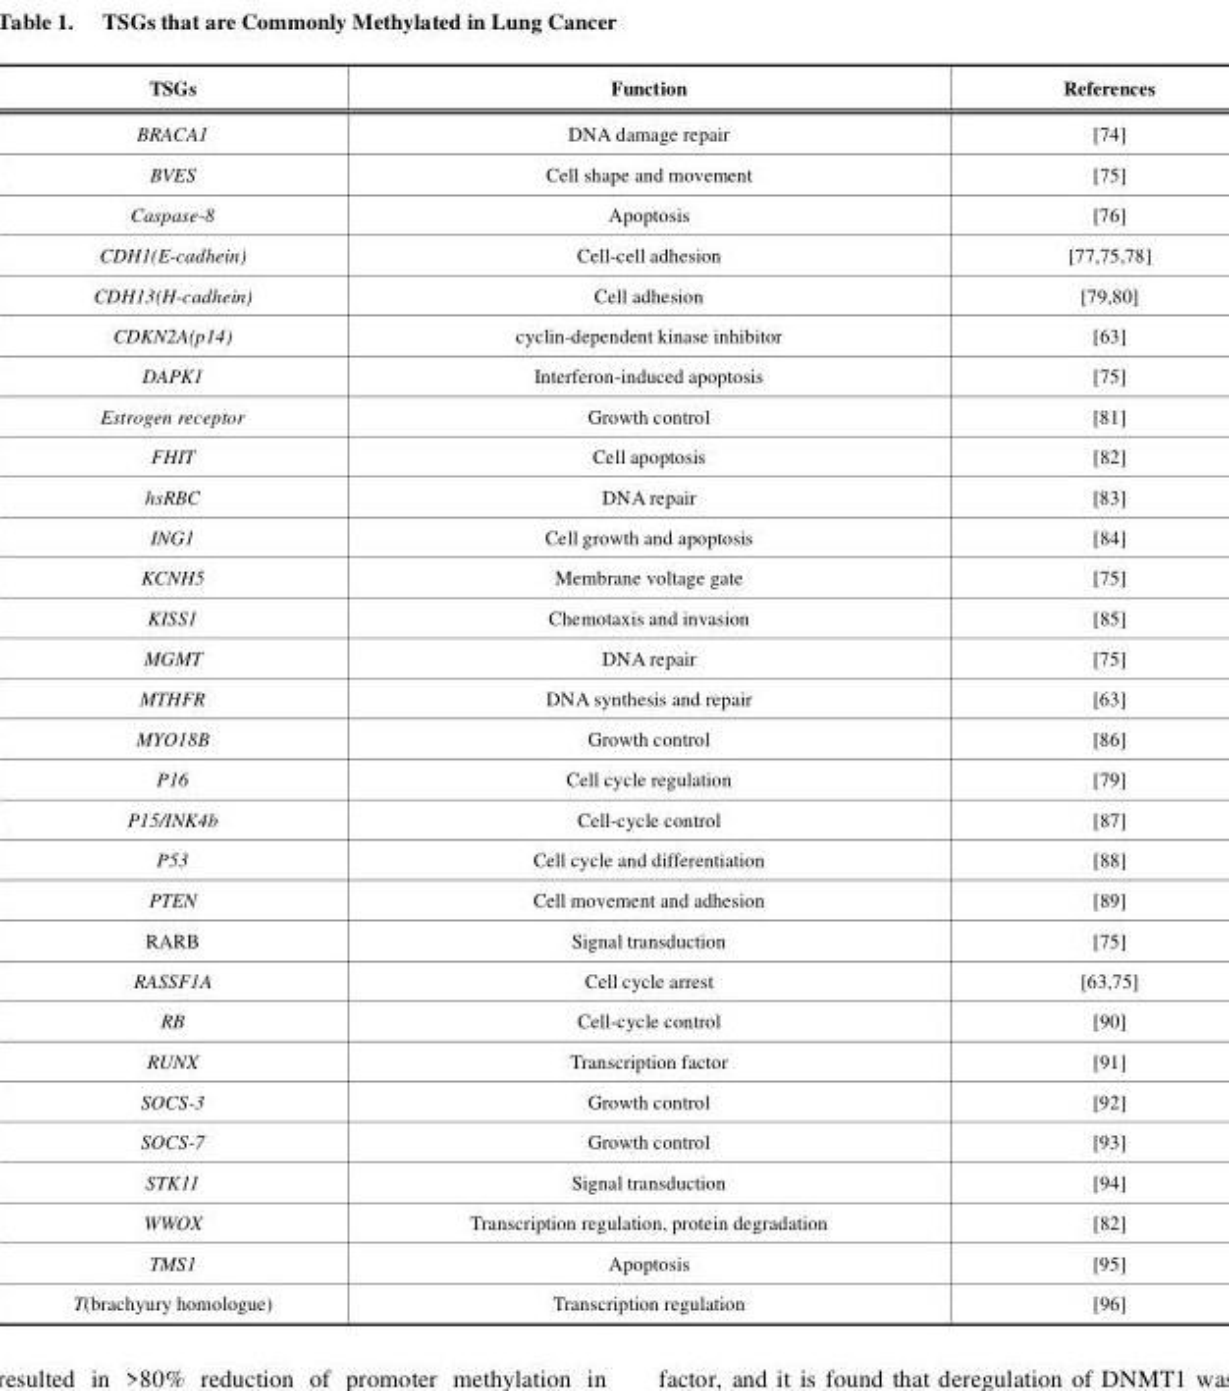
<table><thead><tr><td>TSGs</td><td>Function</td><td>References</td></tr></thead><tbody><tr><td>BRACA1</td><td>DNA damage repair</td><td>[74]</td></tr><tr><td>BVES</td><td>Cell shape and movement</td><td>[75]</td></tr><tr><td>Caspase-8</td><td>Apoptosis</td><td>[76]</td></tr><tr><td>CDH1(E-cadhein)</td><td>Cell-cell adhesion</td><td>[77,75,78]</td></tr><tr><td>CDH13(H-cadhein)</td><td>Cell adhesion</td><td>[79,80]</td></tr><tr><td>CDKN2A(p14)</td><td>cyclin-dependent kinase inhibitor</td><td>[63]</td></tr><tr><td>DAPK1</td><td>Interferon-induced apoptosis</td><td>[75]</td></tr><tr><td>Estrogen receptor</td><td>Growth control</td><td>[81]</td></tr><tr><td>FHIT</td><td>Cell apoptosis</td><td>[82]</td></tr><tr><td>hsRBC</td><td>DNA repair</td><td>[83]</td></tr><tr><td>ING1</td><td>Cell growth and apoptosis</td><td>[84]</td></tr><tr><td>KCNH5</td><td>Membrane voltage gate</td><td>[75]</td></tr><tr><td>KISS1</td><td>Chemotaxis and invasion</td><td>[85]</td></tr><tr><td>MGMT</td><td>DNA repair</td><td>[75]</td></tr><tr><td>MTHFR</td><td>DNA synthesis and repair</td><td>[63]</td></tr><tr><td>MYO18B</td><td>Growth control</td><td>[86]</td></tr><tr><td>P16</td><td>Cell cycle regulation</td><td>[79]</td></tr><tr><td>P15/INK4b</td><td>Cell-cycle control</td><td>[87]</td></tr><tr><td>P53</td><td>Cell cycle and differentiation</td><td>[88]</td></tr><tr><td>PTEN</td><td>Cell movement and adhesion</td><td>[89]</td></tr><tr><td>RARB</td><td>Signal transduction</td><td>[75]</td></tr><tr><td>RASSF1A</td><td>Cell cycle arrest</td><td>[63,75]</td></tr><tr><td>RB</td><td>Cell-cycle control</td><td>[90]</td></tr><tr><td>RUNX</td><td>Transcription factor</td><td>[91]</td></tr><tr><td>SOCS-3</td><td>Growth control</td><td>[92]</td></tr><tr><td>SOCS-7</td><td>Growth control</td><td>[93]</td></tr><tr><td>STK11</td><td>Signal transduction</td><td>[94]</td></tr><tr><td>WWOX</td><td>Transcription regulation, protein degradation</td><td>[82]</td></tr><tr><td>TMS1</td><td>Apoptosis</td><td>[95]</td></tr><tr><td>T(brachyury homologue)</td><td>Transcription regulation</td><td>[96]</td></tr></tbody></table>